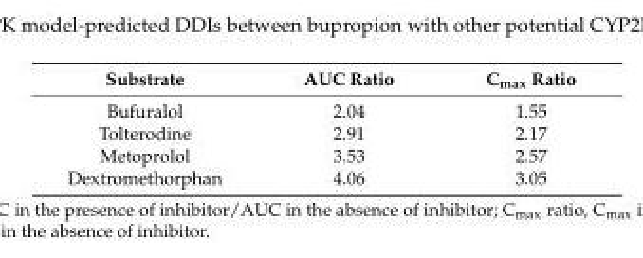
<table><thead><tr><td>Substrate</td><td>AUC Ratio</td><td>C<sub>max</sub> Ratio</td></tr></thead><tbody><tr><td>Bufuralol</td><td>2.04</td><td>1.55</td></tr><tr><td>Tolterodine</td><td>2.91</td><td>2.17</td></tr><tr><td>Metoprolol</td><td>3.53</td><td>2.57</td></tr><tr><td>Dextromethorphan</td><td>4.06</td><td>3.05</td></tr></tbody></table>